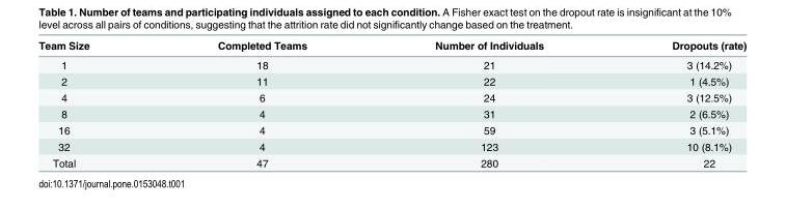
<table><thead><tr><td>Team Size</td><td>Completed Teams</td><td>Number of Individuals</td><td>Dropouts (rate)</td></tr></thead><tbody><tr><td>1</td><td>18</td><td>21</td><td>3 (14.2%)</td></tr><tr><td>2</td><td>11</td><td>22</td><td>1 (4.5%)</td></tr><tr><td>4</td><td>6</td><td>24</td><td>3 (12.5%)</td></tr><tr><td>8</td><td>4</td><td>31</td><td>2 (6.5%)</td></tr><tr><td>16</td><td>4</td><td>59</td><td>3 (5.1%)</td></tr><tr><td>32</td><td>4</td><td>123</td><td>10 (8.1%)</td></tr><tr><td>Total</td><td>47</td><td>280</td><td>22</td></tr></tbody></table>